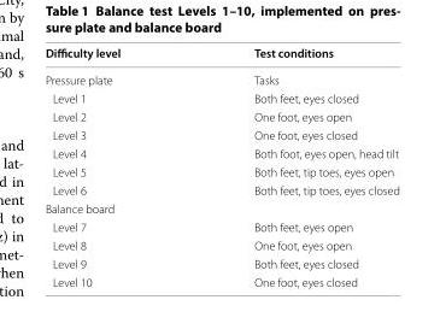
<table><thead><tr><td>Difficulty level</td><td>Test conditions</td></tr></thead><tbody><tr><td>Pressure plate</td><td>Tasks</td></tr><tr><td>Level 1</td><td>Both feet, eyes closed</td></tr><tr><td>Level 2</td><td>One foot, eyes open</td></tr><tr><td>Level 3</td><td>One foot, eyes closed</td></tr><tr><td>Level 4</td><td>Both foot, eyes open, head tilt</td></tr><tr><td>Level 5</td><td>Both feet, tip toes, eyes open</td></tr><tr><td>Level 6</td><td>Both feet, tip toes, eyes closed</td></tr><tr><td colspan="2">Balance board</td></tr><tr><td>Level 7</td><td>Both feet, eyes open</td></tr><tr><td>Level 8</td><td>One foot, eyes open</td></tr><tr><td>Level 9</td><td>Both feet, eyes closed</td></tr><tr><td>Level 10</td><td>One foot, eyes closed</td></tr></tbody></table>